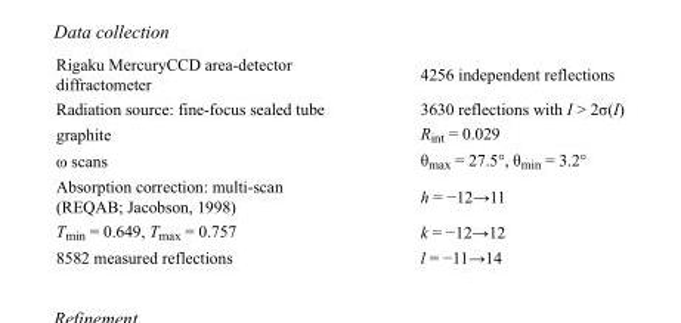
<table><tbody><tr><td>Rigaku MercuryCCD area-detector diffractometer</td><td>4256 independent reflections</td></tr><tr><td>Radiation source: fine-focus sealed tube</td><td>3630 reflections with I &gt; 2σ(I)</td></tr><tr><td>graphite</td><td>R<sub>int</sub> = 0.029</td></tr><tr><td>ω scans</td><td>θ<sub>max</sub> = 27.5°, θ<sub>min</sub> = 3.2°</td></tr><tr><td>Absorption correction: multi-scan (REQAB; Jacobson, 1998)</td><td>h = −12→11</td></tr><tr><td>T<sub>min</sub> = 0.649, T<sub>max</sub> = 0.757</td><td>k = −12→12</td></tr><tr><td>8582 measured reflections</td><td>l = −11→14</td></tr></tbody></table>